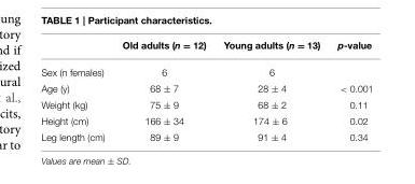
<table><thead><tr><td></td><td>Old adults (n = 12)</td><td>Young adults (n = 13)</td><td>p-value</td></tr></thead><tbody><tr><td>Sex (n females)</td><td>6</td><td>6</td><td></td></tr><tr><td>Age (y)</td><td>68 ± 7</td><td>28 ± 4</td><td>&lt; 0.001</td></tr><tr><td>Weight (kg)</td><td>75 ± 9</td><td>68 ± 2</td><td>0.11</td></tr><tr><td>Height (cm)</td><td>166 ± 34</td><td>174 ± 6</td><td>0.02</td></tr><tr><td>Leg length (cm)</td><td>89 ± 9</td><td>91 ± 4</td><td>0.34</td></tr></tbody></table>